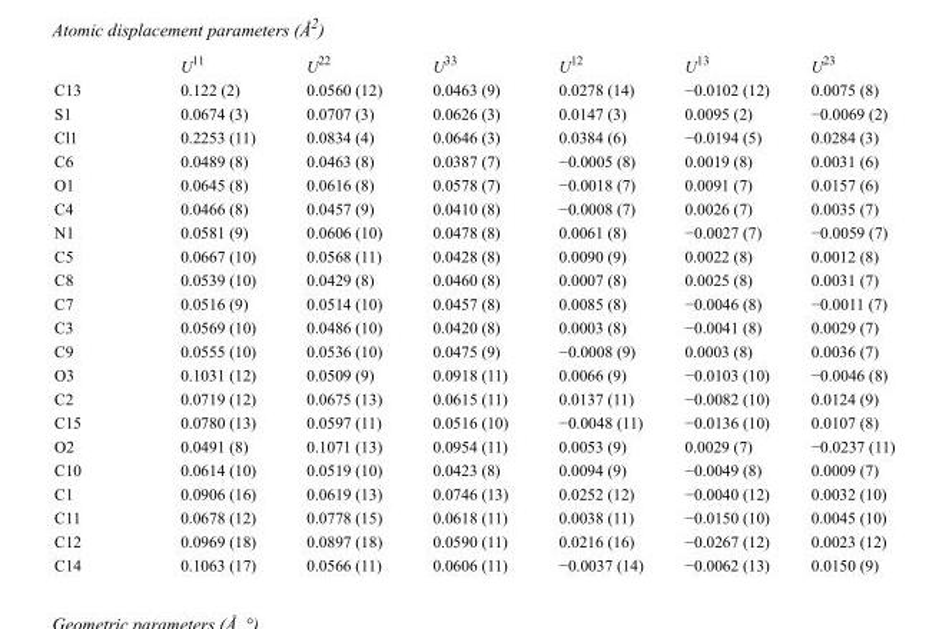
<table><thead><tr><td></td><td>U<sup>11</sup></td><td>U<sup>22</sup></td><td>U<sup>33</sup></td><td>U<sup>12</sup></td><td>U<sup>13</sup></td><td>U<sup>23</sup></td></tr></thead><tbody><tr><td>C13</td><td>0.122 (2)</td><td>0.0560 (12)</td><td>0.0463 (9)</td><td>0.0278 (14)</td><td>−0.0102 (12)</td><td>0.0075 (8)</td></tr><tr><td>S1</td><td>0.0674 (3)</td><td>0.0707 (3)</td><td>0.0626 (3)</td><td>0.0147 (3)</td><td>0.0095 (2)</td><td>−0.0069 (2)</td></tr><tr><td>Cl1</td><td>0.2253 (11)</td><td>0.0834 (4)</td><td>0.0646 (3)</td><td>0.0384 (6)</td><td>−0.0194 (5)</td><td>0.0284 (3)</td></tr><tr><td>C6</td><td>0.0489 (8)</td><td>0.0463 (8)</td><td>0.0387 (7)</td><td>−0.0005 (8)</td><td>0.0019 (8)</td><td>0.0031 (6)</td></tr><tr><td>O1</td><td>0.0645 (8)</td><td>0.0616 (8)</td><td>0.0578 (7)</td><td>−0.0018 (7)</td><td>0.0091 (7)</td><td>0.0157 (6)</td></tr><tr><td>C4</td><td>0.0466 (8)</td><td>0.0457 (9)</td><td>0.0410 (8)</td><td>−0.0008 (7)</td><td>0.0026 (7)</td><td>0.0035 (7)</td></tr><tr><td>N1</td><td>0.0581 (9)</td><td>0.0606 (10)</td><td>0.0478 (8)</td><td>0.0061 (8)</td><td>−0.0027 (7)</td><td>−0.0059 (7)</td></tr><tr><td>C5</td><td>0.0667 (10)</td><td>0.0568 (11)</td><td>0.0428 (8)</td><td>0.0090 (9)</td><td>0.0022 (8)</td><td>0.0012 (8)</td></tr><tr><td>C8</td><td>0.0539 (10)</td><td>0.0429 (8)</td><td>0.0460 (8)</td><td>0.0007 (8)</td><td>0.0025 (8)</td><td>0.0031 (7)</td></tr><tr><td>C7</td><td>0.0516 (9)</td><td>0.0514 (10)</td><td>0.0457 (8)</td><td>0.0085 (8)</td><td>−0.0046 (8)</td><td>−0.0011 (7)</td></tr><tr><td>C3</td><td>0.0569 (10)</td><td>0.0486 (10)</td><td>0.0420 (8)</td><td>0.0003 (8)</td><td>−0.0041 (8)</td><td>0.0029 (7)</td></tr><tr><td>C9</td><td>0.0555 (10)</td><td>0.0536 (10)</td><td>0.0475 (9)</td><td>−0.0008 (9)</td><td>0.0003 (8)</td><td>0.0036 (7)</td></tr><tr><td>O3</td><td>0.1031 (12)</td><td>0.0509 (9)</td><td>0.0918 (11)</td><td>0.0066 (9)</td><td>−0.0103 (10)</td><td>−0.0046 (8)</td></tr><tr><td>C2</td><td>0.0719 (12)</td><td>0.0675 (13)</td><td>0.0615 (11)</td><td>0.0137 (11)</td><td>−0.0082 (10)</td><td>0.0124 (9)</td></tr><tr><td>C15</td><td>0.0780 (13)</td><td>0.0597 (11)</td><td>0.0516 (10)</td><td>−0.0048 (11)</td><td>−0.0136 (10)</td><td>0.0107 (8)</td></tr><tr><td>O2</td><td>0.0491 (8)</td><td>0.1071 (13)</td><td>0.0954 (11)</td><td>0.0053 (9)</td><td>0.0029 (7)</td><td>−0.0237 (11)</td></tr><tr><td>C10</td><td>0.0614 (10)</td><td>0.0519 (10)</td><td>0.0423 (8)</td><td>0.0094 (9)</td><td>−0.0049 (8)</td><td>0.0009 (7)</td></tr><tr><td>C1</td><td>0.0906 (16)</td><td>0.0619 (13)</td><td>0.0746 (13)</td><td>0.0252 (12)</td><td>−0.0040 (12)</td><td>0.0032 (10)</td></tr><tr><td>C11</td><td>0.0678 (12)</td><td>0.0778 (15)</td><td>0.0618 (11)</td><td>0.0038 (11)</td><td>−0.0150 (10)</td><td>0.0045 (10)</td></tr><tr><td>C12</td><td>0.0969 (18)</td><td>0.0897 (18)</td><td>0.0590 (11)</td><td>0.0216 (16)</td><td>−0.0267 (12)</td><td>0.0023 (12)</td></tr><tr><td>C14</td><td>0.1063 (17)</td><td>0.0566 (11)</td><td>0.0606 (11)</td><td>−0.0037 (14)</td><td>−0.0062 (13)</td><td>0.0150 (9)</td></tr></tbody></table>